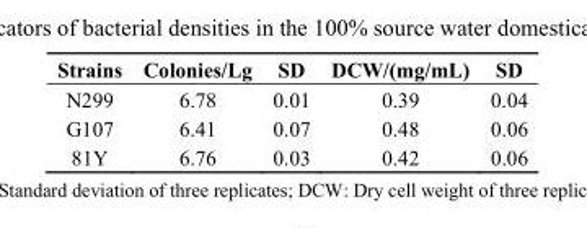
<table><thead><tr><td>Strains</td><td>Colonies/Lg</td><td>SD</td><td>DCW/(mg/mL)</td><td>SD</td></tr></thead><tbody><tr><td>N299</td><td>6.78</td><td>0.01</td><td>0.39</td><td>0.04</td></tr><tr><td>G107</td><td>6.41</td><td>0.07</td><td>0.48</td><td>0.06</td></tr><tr><td>81Y</td><td>6.76</td><td>0.03</td><td>0.42</td><td>0.06</td></tr></tbody></table>